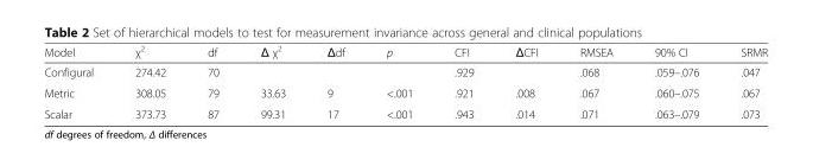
<table><thead><tr><td>Model</td><td>χ<sup>2</sup></td><td>df</td><td>Δ χ<sup>2</sup></td><td>Δdf</td><td>p</td><td>CFI</td><td>ΔCFI</td><td>RMSEA</td><td>90% CI</td><td>SRMR</td></tr></thead><tbody><tr><td>Configural</td><td>274.42</td><td>70</td><td></td><td></td><td></td><td>.929</td><td></td><td>.068</td><td>.059–.076</td><td>.047</td></tr><tr><td>Metric</td><td>308.05</td><td>79</td><td>33.63</td><td>9</td><td>&lt;.001</td><td>.921</td><td>.008</td><td>.067</td><td>.060–.075</td><td>.067</td></tr><tr><td>Scalar</td><td>373.73</td><td>87</td><td>99.31</td><td>17</td><td>&lt;.001</td><td>.943</td><td>.014</td><td>.071</td><td>.063–.079</td><td>.073</td></tr></tbody></table>